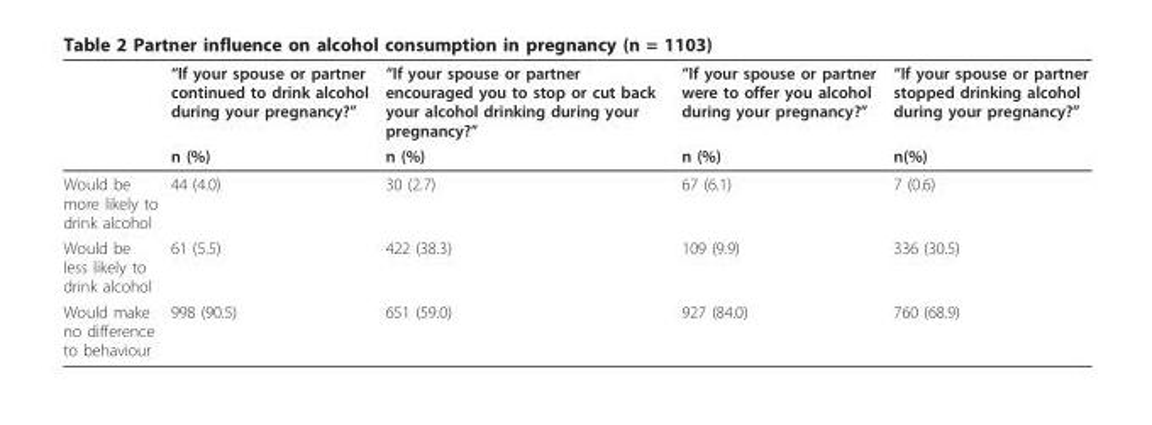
<table><thead><tr><td rowspan="2"></td><td rowspan="2">“If your spouse or partner continued to drink alcohol during your pregnancy?” n (%)</td><td rowspan="2">“If your spouse or partner encouraged you to stop or cut back your alcohol drinking during your pregnancy?” n (%)</td><td rowspan="2">“If your spouse or partner were to offer you alcohol during your pregnancy?” n (%)</td><td rowspan="2">“If your spouse or partner stopped drinking alcohol during your pregnancy?” n(%)</td></tr><tr></tr></thead><tbody><tr><td>Would be more likely to drink alcohol</td><td>44 (4.0)</td><td>30 (2.7)</td><td>67 (6.1)</td><td>7 (0.6)</td></tr><tr><td>Would be less likely to drink alcohol</td><td>61 (5.5)</td><td>422 (38.3)</td><td>109 (9.9)</td><td>336 (30.5)</td></tr><tr><td>Would make no difference to behaviour</td><td>998 (90.5)</td><td>651 (59.0)</td><td>927 (84.0)</td><td>760 (68.9)</td></tr></tbody></table>